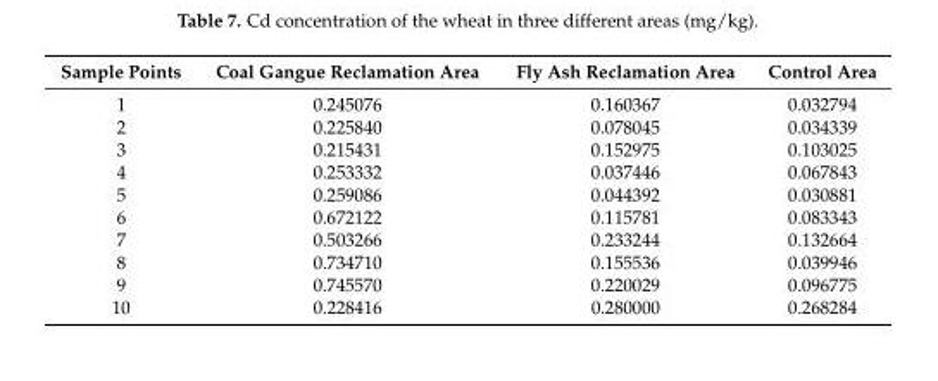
<table><thead><tr><td>Sample Points</td><td>Coal Gangue Reclamation Area</td><td>Fly Ash Reclamation Area</td><td>Control Area</td></tr></thead><tbody><tr><td>1</td><td>0.245076</td><td>0.160367</td><td>0.032794</td></tr><tr><td>2</td><td>0.225840</td><td>0.078045</td><td>0.034339</td></tr><tr><td>3</td><td>0.215431</td><td>0.152975</td><td>0.103025</td></tr><tr><td>4</td><td>0.253332</td><td>0.037446</td><td>0.067843</td></tr><tr><td>5</td><td>0.259086</td><td>0.044392</td><td>0.030881</td></tr><tr><td>6</td><td>0.672122</td><td>0.115781</td><td>0.083343</td></tr><tr><td>7</td><td>0.503266</td><td>0.233244</td><td>0.132664</td></tr><tr><td>8</td><td>0.734710</td><td>0.155536</td><td>0.039946</td></tr><tr><td>9</td><td>0.745570</td><td>0.220029</td><td>0.096775</td></tr><tr><td>10</td><td>0.228416</td><td>0.280000</td><td>0.268284</td></tr></tbody></table>